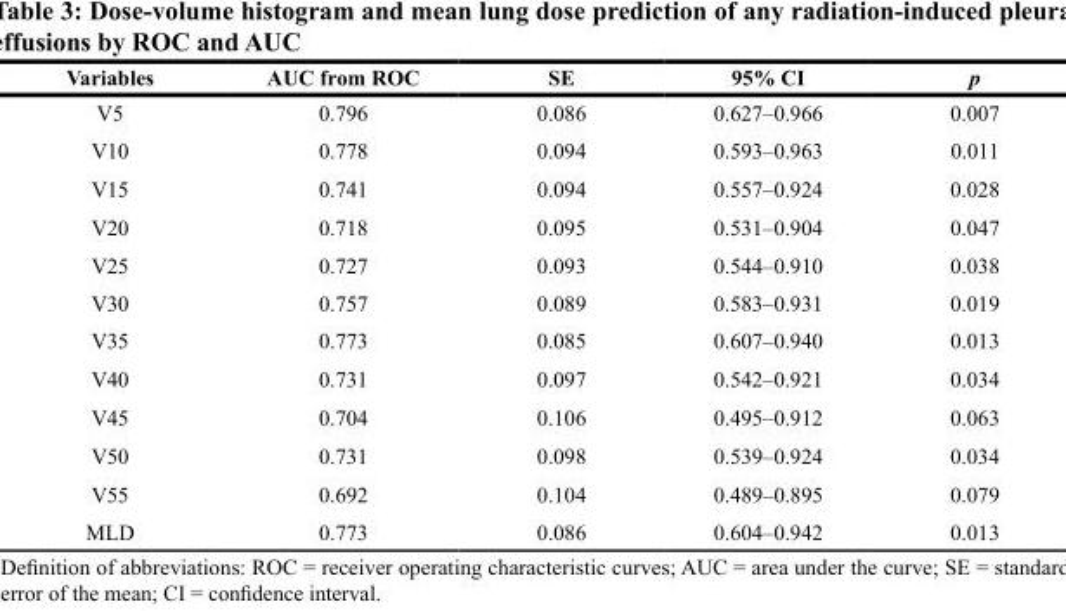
<table><thead><tr><td>Variables</td><td>AUC from ROC</td><td>SE</td><td>95% CI</td><td>p</td></tr></thead><tbody><tr><td>V5</td><td>0.796</td><td>0.086</td><td>0.627–0.966</td><td>0.007</td></tr><tr><td>V10</td><td>0.778</td><td>0.094</td><td>0.593–0.963</td><td>0.011</td></tr><tr><td>V15</td><td>0.741</td><td>0.094</td><td>0.557–0.924</td><td>0.028</td></tr><tr><td>V20</td><td>0.718</td><td>0.095</td><td>0.531–0.904</td><td>0.047</td></tr><tr><td>V25</td><td>0.727</td><td>0.093</td><td>0.544–0.910</td><td>0.038</td></tr><tr><td>V30</td><td>0.757</td><td>0.089</td><td>0.583–0.931</td><td>0.019</td></tr><tr><td>V35</td><td>0.773</td><td>0.085</td><td>0.607–0.940</td><td>0.013</td></tr><tr><td>V40</td><td>0.731</td><td>0.097</td><td>0.542–0.921</td><td>0.034</td></tr><tr><td>V45</td><td>0.704</td><td>0.106</td><td>0.495–0.912</td><td>0.063</td></tr><tr><td>V50</td><td>0.731</td><td>0.098</td><td>0.539–0.924</td><td>0.034</td></tr><tr><td>V55</td><td>0.692</td><td>0.104</td><td>0.489–0.895</td><td>0.079</td></tr><tr><td>MLD</td><td>0.773</td><td>0.086</td><td>0.604–0.942</td><td>0.013</td></tr></tbody></table>